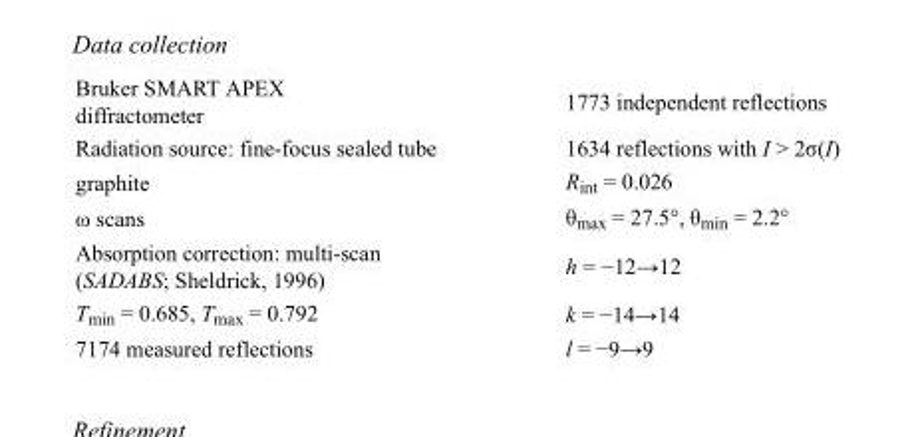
<table><tbody><tr><td>Bruker SMART APEX diffractometer</td><td>1773 independent reflections</td></tr><tr><td>Radiation source: fine-focus sealed tube</td><td>1634 reflections with I &gt; 2σ(I)</td></tr><tr><td>graphite</td><td>R<sub>int</sub> = 0.026</td></tr><tr><td>ω scans</td><td>θ<sub>max</sub> = 27.5°, θ<sub>min</sub> = 2.2°</td></tr><tr><td>Absorption correction: multi-scan (SADABS; Sheldrick, 1996)</td><td>h = −12→12</td></tr><tr><td>T<sub>min</sub> = 0.685, T<sub>max</sub> = 0.792</td><td>k = −14→14</td></tr><tr><td>7174 measured reflections</td><td>l = −9→9</td></tr></tbody></table>